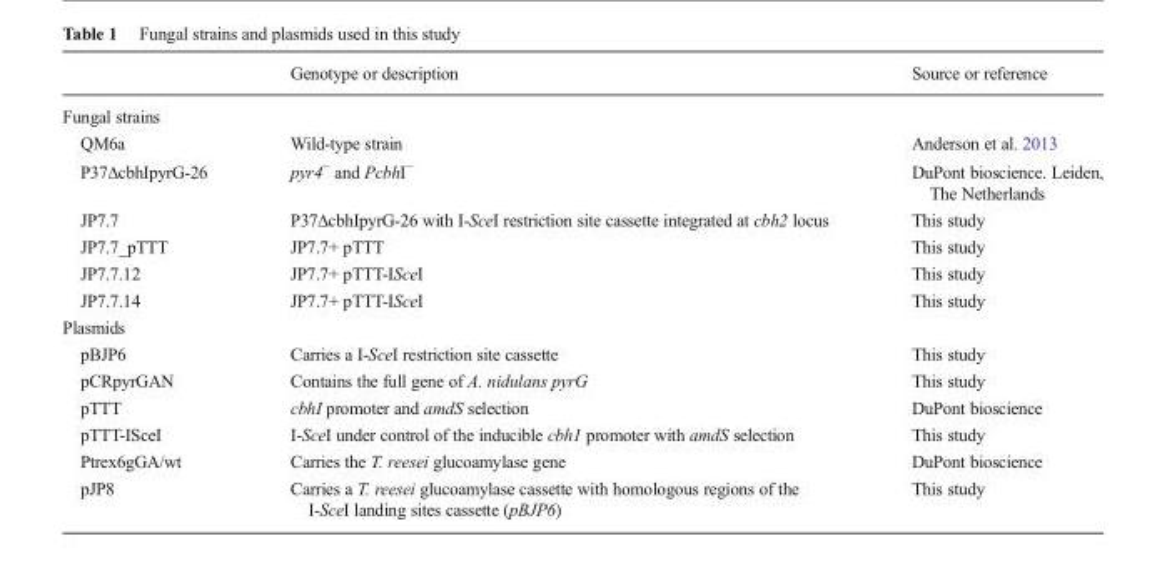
<table><thead><tr><td></td><td>Genotype or description</td><td>Source or reference</td></tr></thead><tbody><tr><td colspan="3">Fungal strains</td></tr><tr><td>QM6a</td><td>Wild-type strain</td><td>Anderson et al. 2013</td></tr><tr><td>P37ΔcbhIpyrG-26</td><td>pyr4<sup>−</sup> and PcbhI<sup>−</sup></td><td>DuPont bioscience. Leiden, The Netherlands</td></tr><tr><td>JP7.7</td><td>P37ΔcbhIpyrG-26 with I-SceI restriction site cassette integrated at cbh2 locus</td><td>This study</td></tr><tr><td>JP7.7_pTTT</td><td>JP7.7+ pTTT</td><td>This study</td></tr><tr><td>JP7.7.12</td><td>JP7.7+ pTTT-ISceI</td><td>This study</td></tr><tr><td>JP7.7.14</td><td>JP7.7+ pTTT-ISceI</td><td>This study</td></tr><tr><td colspan="3">Plasmids</td></tr><tr><td>pBJP6</td><td>Carries a I-SceI restriction site cassette</td><td>This study</td></tr><tr><td>pCRpyrGAN</td><td>Contains the full gene of A. nidulans pyrG</td><td>This study</td></tr><tr><td>pTTT</td><td>cbhI promoter and amdS selection</td><td>DuPont bioscience</td></tr><tr><td>pTTT-ISceI</td><td>I-SceI under control of the inducible cbh1 promoter with amdS selection</td><td>This study</td></tr><tr><td>Ptrex6gGA/wt</td><td>Carries the T. reesei glucoamylase gene</td><td>DuPont bioscience</td></tr><tr><td>pJP8</td><td>Carries a T. reesei glucoamylase cassette with homologous regions of the I-SceI landing sites cassette (pBJP6)</td><td>This study</td></tr></tbody></table>